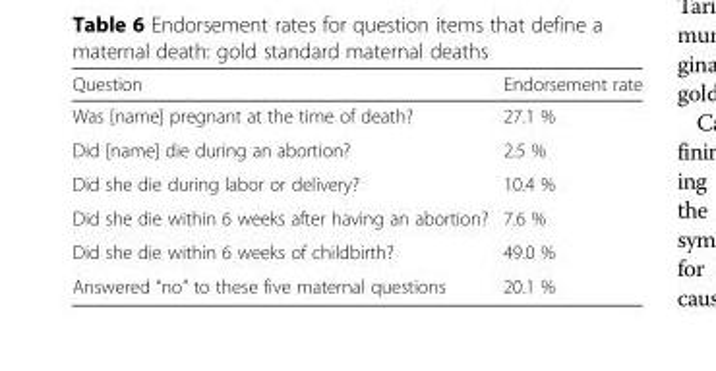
<table><thead><tr><td>Question</td><td>Endorsement rate</td></tr></thead><tbody><tr><td>Was [name] pregnant at the time of death?</td><td>27.1 %</td></tr><tr><td>Did [name] die during an abortion?</td><td>2.5 %</td></tr><tr><td>Did she die during labor or delivery?</td><td>10.4 %</td></tr><tr><td>Did she die within 6 weeks after having an abortion?</td><td>7.6 %</td></tr><tr><td>Did she die within 6 weeks of childbirth?</td><td>49.0 %</td></tr><tr><td>Answered “no” to these five maternal questions</td><td>20.1 %</td></tr></tbody></table>